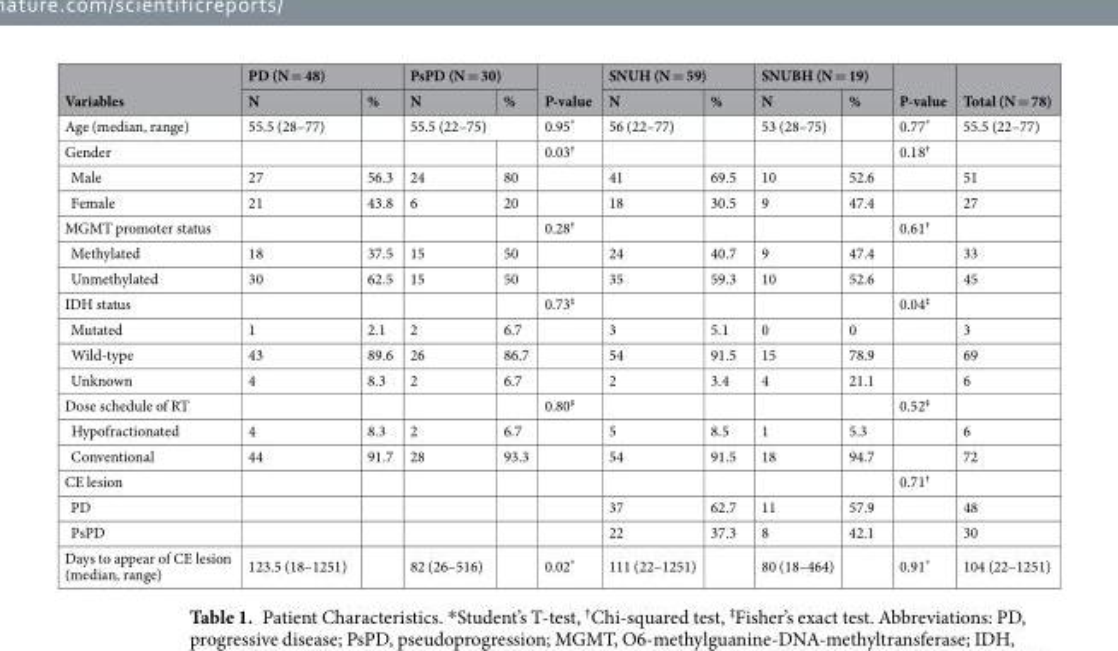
<table><thead><tr><td rowspan="2">Variables</td><td colspan="2">PD (N = 48)</td><td colspan="2">PsPD (N = 30)</td><td rowspan="2">P-value</td><td colspan="2">SNUH (N = 59)</td><td colspan="2">SNUBH (N = 19)</td><td rowspan="2">P-value</td><td rowspan="2">Total (N = 78)</td></tr><tr><td>N</td><td>%</td><td>N</td><td>%</td><td>N</td><td>%</td><td>N</td><td>%</td></tr></thead><tbody><tr><td>Age (median, range)</td><td>55.5 (28–77)</td><td></td><td colspan="2">55.5 (22–75)</td><td>0.95*</td><td>56 (22–77)</td><td></td><td>53 (28–75)</td><td></td><td>0.77*</td><td>55.5 (22–77)</td></tr><tr><td>Gender</td><td></td><td></td><td></td><td></td><td>0.03<sup>†</sup></td><td></td><td></td><td></td><td></td><td>0.18<sup>†</sup></td><td></td></tr><tr><td>Male</td><td>27</td><td>56.3</td><td>24</td><td>80</td><td></td><td>41</td><td>69.5</td><td>10</td><td>52.6</td><td></td><td>51</td></tr><tr><td>Female</td><td>21</td><td>43.8</td><td>6</td><td>20</td><td></td><td>18</td><td>30.5</td><td>9</td><td>47.4</td><td></td><td>27</td></tr><tr><td>MGMT promoter status</td><td></td><td></td><td></td><td></td><td>0.28<sup>†</sup></td><td></td><td></td><td></td><td></td><td>0.61<sup>†</sup></td><td></td></tr><tr><td>Methylated</td><td>18</td><td>37.5</td><td>15</td><td>50</td><td></td><td>24</td><td>40.7</td><td>9</td><td>47.4</td><td></td><td>33</td></tr><tr><td>Unmethylated</td><td>30</td><td>62.5</td><td>15</td><td>50</td><td></td><td>35</td><td>59.3</td><td>10</td><td>52.6</td><td></td><td>45</td></tr><tr><td>IDH status</td><td></td><td></td><td></td><td></td><td>0.73<sup>‡</sup></td><td></td><td></td><td></td><td></td><td>0.04<sup>‡</sup></td><td></td></tr><tr><td>Mutated</td><td>1</td><td>2.1</td><td>2</td><td>6.7</td><td></td><td>3</td><td>5.1</td><td>0</td><td>0</td><td></td><td>3</td></tr><tr><td>Wild-type</td><td>43</td><td>89.6</td><td>26</td><td>86.7</td><td></td><td>54</td><td>91.5</td><td>15</td><td>78.9</td><td></td><td>69</td></tr><tr><td>Unknown</td><td>4</td><td>8.3</td><td>2</td><td>6.7</td><td></td><td>2</td><td>3.4</td><td>4</td><td>21.1</td><td></td><td>6</td></tr><tr><td>Dose schedule of RT</td><td></td><td></td><td></td><td></td><td>0.80<sup>‡</sup></td><td></td><td></td><td></td><td></td><td>0.52<sup>‡</sup></td><td></td></tr><tr><td>Hypofractionated</td><td>4</td><td>8.3</td><td>2</td><td>6.7</td><td></td><td>5</td><td>8.5</td><td>1</td><td>5.3</td><td></td><td>6</td></tr><tr><td>Conventional</td><td>44</td><td>91.7</td><td>28</td><td>93.3</td><td></td><td>54</td><td>91.5</td><td>18</td><td>94.7</td><td></td><td>72</td></tr><tr><td>CE lesion</td><td></td><td></td><td></td><td></td><td></td><td></td><td></td><td></td><td></td><td>0.71<sup>†</sup></td><td></td></tr><tr><td>PD</td><td></td><td></td><td></td><td></td><td></td><td>37</td><td>62.7</td><td>11</td><td>57.9</td><td></td><td>48</td></tr><tr><td>PsPD</td><td></td><td></td><td></td><td></td><td></td><td>22</td><td>37.3</td><td>8</td><td>42.1</td><td></td><td>30</td></tr><tr><td>Days to appear of CE lesion (median, range)</td><td>123.5 (18–1251)</td><td></td><td>82 (26–516)</td><td></td><td>0.02*</td><td>111 (22–1251)</td><td></td><td>80 (18–464)</td><td></td><td>0.91*</td><td>104 (22–1251)</td></tr></tbody></table>